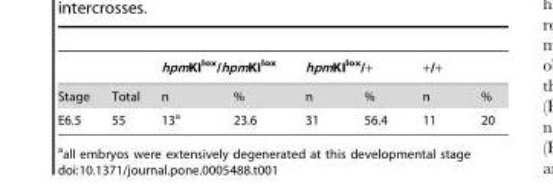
<table><thead><tr><td rowspan="2">Stage</td><td rowspan="2">Total</td><td colspan="2">hpmKI<sup>lox</sup>/hpmKI<sup>lox</sup></td><td colspan="2">hpmKI<sup>lox</sup>/+</td><td colspan="2">+/+</td></tr><tr><td>n</td><td>%</td><td>n</td><td>%</td><td>n</td><td>%</td></tr></thead><tbody><tr><td>E6.5</td><td>55</td><td>13<sup>a</sup></td><td>23.6</td><td>31</td><td>56.4</td><td>11</td><td>20</td></tr></tbody></table>